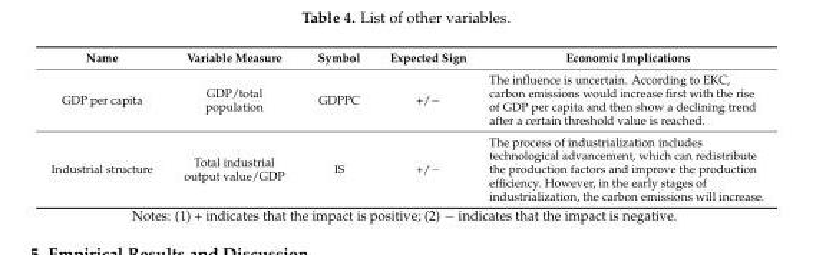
<table><thead><tr><td>Name</td><td>Variable Measure</td><td>Symbol</td><td>Expected Sign</td><td>Economic Implications</td></tr></thead><tbody><tr><td>GDP per capita</td><td>GDP/total population</td><td>GDPPC</td><td>+/−</td><td>The influence is uncertain. According to EKC, carbon emissions would increase first with the rise of GDP per capita and then show a declining trend after a certain threshold value is reached.</td></tr><tr><td>Industrial structure</td><td>Total industrial output value/GDP</td><td>IS</td><td>+/−</td><td>The process of industrialization includes technological advancement, which can redistribute the production factors and improve the production efficiency. However, in the early stages of industrialization, the carbon emissions will increase.</td></tr></tbody></table>